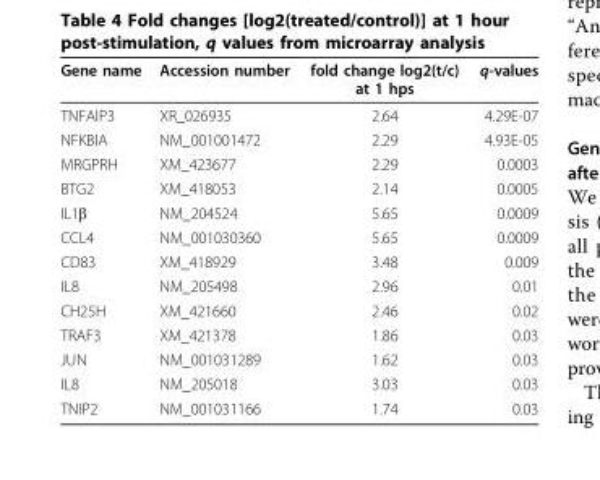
<table><thead><tr><td>Gene name</td><td>Accession number</td><td>fold change log2(t/c) at 1 hps</td><td>q-values</td></tr></thead><tbody><tr><td>TNFAIP3</td><td>XR_026935</td><td>2.64</td><td>4.29E-07</td></tr><tr><td>NFKBIA</td><td>NM_001001472</td><td>2.29</td><td>4.93E-05</td></tr><tr><td>MRGPRH</td><td>XM_423677</td><td>2.29</td><td>0.0003</td></tr><tr><td>BTG2</td><td>XM_418053</td><td>2.14</td><td>0.0005</td></tr><tr><td>IL1β</td><td>NM_204524</td><td>5.65</td><td>0.0009</td></tr><tr><td>CCL4</td><td>NM_001030360</td><td>5.65</td><td>0.0009</td></tr><tr><td>CD83</td><td>XM_418929</td><td>3.48</td><td>0.009</td></tr><tr><td>IL8</td><td>NM_205498</td><td>2.96</td><td>0.01</td></tr><tr><td>CH25H</td><td>XM_421660</td><td>2.46</td><td>0.02</td></tr><tr><td>TRAF3</td><td>XM_421378</td><td>1.86</td><td>0.03</td></tr><tr><td>JUN</td><td>NM_001031289</td><td>1.62</td><td>0.03</td></tr><tr><td>IL8</td><td>NM_205018</td><td>3.03</td><td>0.03</td></tr><tr><td>TNIP2</td><td>NM_001031166</td><td>1.74</td><td>0.03</td></tr></tbody></table>